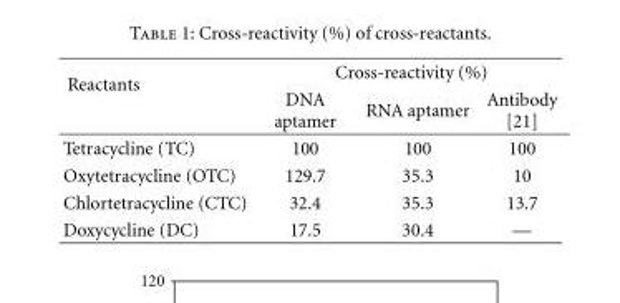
<table><thead><tr><td rowspan="2">Reactants</td><td colspan="3">Cross-reactivity (%)</td></tr><tr><td>DNA aptamer</td><td>RNA aptamer</td><td>Antibody [21]</td></tr></thead><tbody><tr><td>Tetracycline (TC)</td><td>100</td><td>100</td><td>100</td></tr><tr><td>Oxytetracycline (OTC)</td><td>129.7</td><td>35.3</td><td>10</td></tr><tr><td>Chlortetracycline (CTC)</td><td>32.4</td><td>35.3</td><td>13.7</td></tr><tr><td>Doxycycline (DC)</td><td>17.5</td><td>30.4</td><td>—</td></tr></tbody></table>